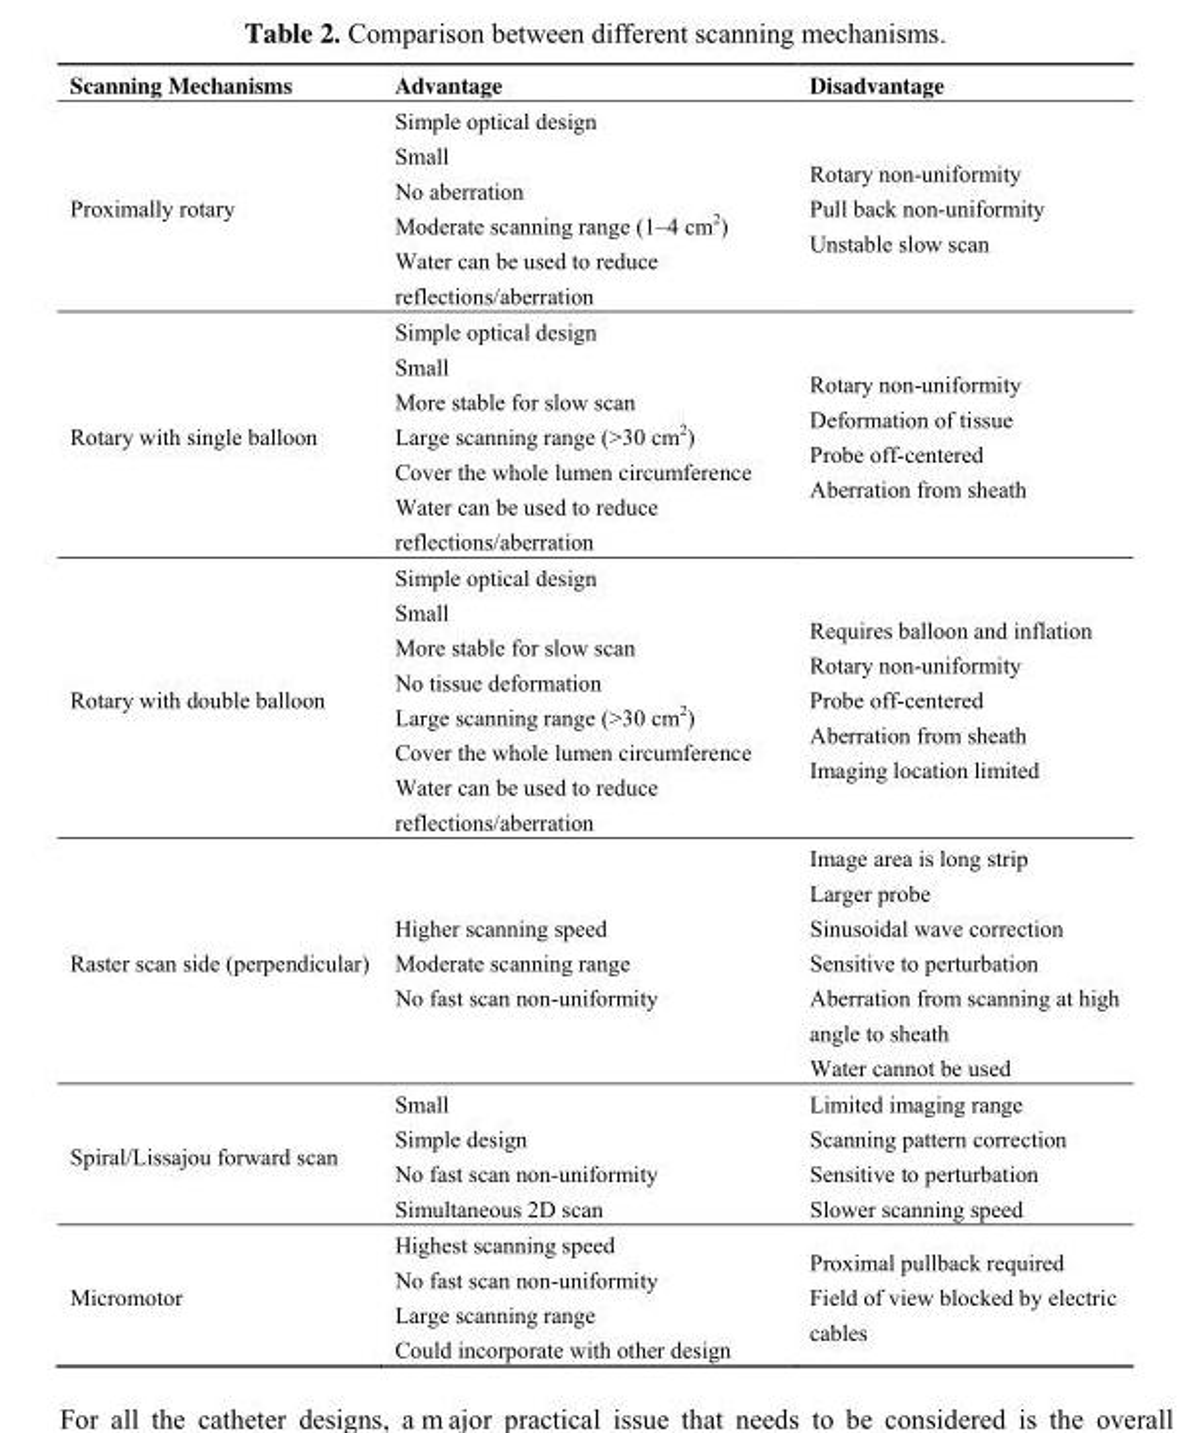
<table><thead><tr><td>Scanning Mechanisms</td><td>Advantage</td><td>Disadvantage</td></tr></thead><tbody><tr><td>Proximally rotary</td><td>Simple optical design Small No aberration Moderate scanning range (1–4 cm<sup>2</sup>) Water can be used to reduce reflections/aberration</td><td>Rotary non-uniformity Pull back non-uniformity Unstable slow scan</td></tr><tr><td>Rotary with single balloon</td><td>Simple optical design Small More stable for slow scan Large scanning range (&gt;30 cm<sup>2</sup>) Cover the whole lumen circumference Water can be used to reduce reflections/aberration</td><td>Rotary non-uniformity Deformation of tissue Probe off-centered Aberration from sheath</td></tr><tr><td>Rotary with double balloon</td><td>Simple optical design Small More stable for slow scan No tissue deformation Large scanning range (&gt;30 cm<sup>2</sup>) Cover the whole lumen circumference Water can be used to reduce reflections/aberration</td><td>Requires balloon and inflation Rotary non-uniformity Probe off-centered Aberration from sheath Imaging location limited</td></tr><tr><td>Raster scan side (perpendicular)</td><td>Higher scanning speed Moderate scanning range No fast scan non-uniformity</td><td>Image area is long strip Larger probe Sinusoidal wave correction Sensitive to perturbation Aberration from scanning at high angle to sheath Water cannot be used</td></tr><tr><td>Spiral/Lissajou forward scan</td><td>Small Simple design No fast scan non-uniformity Simultaneous 2D scan</td><td>Limited imaging range Scanning pattern correction Sensitive to perturbation Slower scanning speed</td></tr><tr><td>Micromotor</td><td>Highest scanning speed No fast scan non-uniformity Large scanning range Could incorporate with other design</td><td>Proximal pullback required Field of view blocked by electric cables</td></tr></tbody></table>